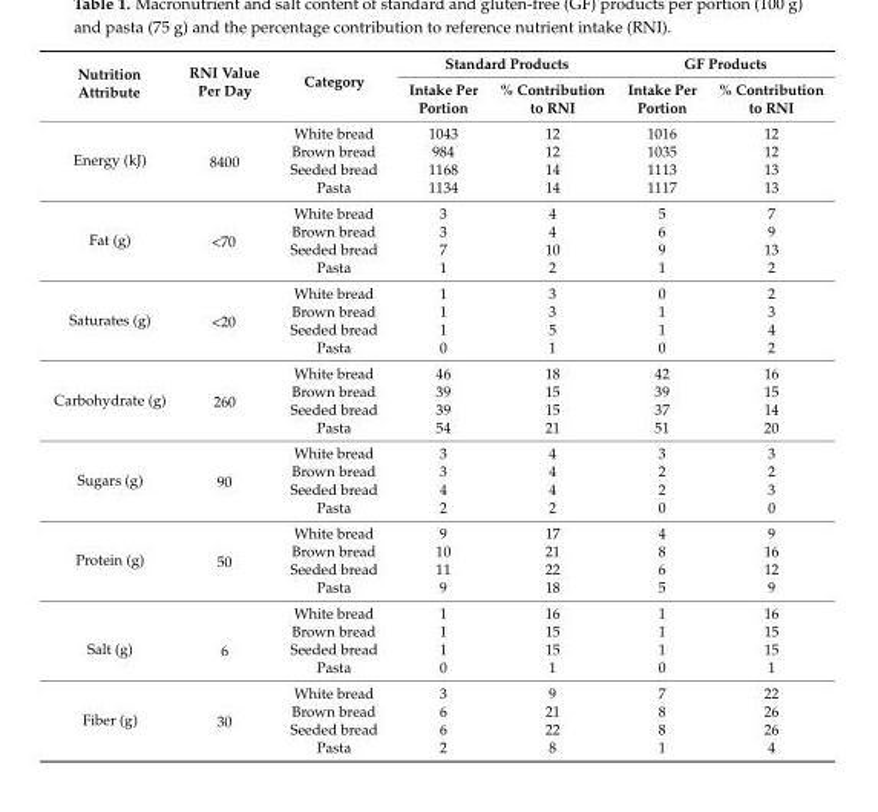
<table><thead><tr><td rowspan="2">Nutrition Attribute</td><td rowspan="2">RNI Value Per Day</td><td rowspan="2">Category</td><td colspan="2">Standard Products</td><td colspan="2">GF Products</td></tr><tr><td>Intake Per Portion</td><td>% Contribution to RNI</td><td>Intake Per Portion</td><td>% Contribution to RNI</td></tr></thead><tbody><tr><td rowspan="4">Energy (kJ)</td><td rowspan="4">8400</td><td>White bread</td><td>1043</td><td>12</td><td>1016</td><td>12</td></tr><tr><td>Brown bread</td><td>984</td><td>12</td><td>1035</td><td>12</td></tr><tr><td>Seeded bread</td><td>1168</td><td>14</td><td>1113</td><td>13</td></tr><tr><td>Pasta</td><td>1134</td><td>14</td><td>1117</td><td>13</td></tr><tr><td rowspan="4">Fat (g)</td><td rowspan="4">&lt;70</td><td>White bread</td><td>3</td><td>4</td><td>5</td><td>7</td></tr><tr><td>Brown bread</td><td>3</td><td>4</td><td>6</td><td>9</td></tr><tr><td>Seeded bread</td><td>7</td><td>10</td><td>9</td><td>13</td></tr><tr><td>Pasta</td><td>1</td><td>2</td><td>1</td><td>2</td></tr><tr><td rowspan="4">Saturates (g)</td><td rowspan="4">&lt;20</td><td>White bread</td><td>1</td><td>3</td><td>0</td><td>2</td></tr><tr><td>Brown bread</td><td>1</td><td>3</td><td>1</td><td>3</td></tr><tr><td>Seeded bread</td><td>1</td><td>5</td><td>1</td><td>4</td></tr><tr><td>Pasta</td><td>0</td><td>1</td><td>0</td><td>2</td></tr><tr><td rowspan="4">Carbohydrate (g)</td><td rowspan="4">260</td><td>White bread</td><td>46</td><td>18</td><td>42</td><td>16</td></tr><tr><td>Brown bread</td><td>39</td><td>15</td><td>39</td><td>15</td></tr><tr><td>Seeded bread</td><td>39</td><td>15</td><td>37</td><td>14</td></tr><tr><td>Pasta</td><td>54</td><td>21</td><td>51</td><td>20</td></tr><tr><td rowspan="4">Sugars (g)</td><td rowspan="4">90</td><td>White bread</td><td>3</td><td>4</td><td>3</td><td>3</td></tr><tr><td>Brown bread</td><td>3</td><td>4</td><td>2</td><td>2</td></tr><tr><td>Seeded bread</td><td>4</td><td>4</td><td>2</td><td>3</td></tr><tr><td>Pasta</td><td>2</td><td>2</td><td>0</td><td>0</td></tr><tr><td rowspan="4">Protein (g)</td><td rowspan="4">50</td><td>White bread</td><td>9</td><td>17</td><td>4</td><td>9</td></tr><tr><td>Brown bread</td><td>10</td><td>21</td><td>8</td><td>16</td></tr><tr><td>Seeded bread</td><td>11</td><td>22</td><td>6</td><td>12</td></tr><tr><td>Pasta</td><td>9</td><td>18</td><td>5</td><td>9</td></tr><tr><td rowspan="4">Salt (g)</td><td rowspan="4">6</td><td>White bread</td><td>1</td><td>16</td><td>1</td><td>16</td></tr><tr><td>Brown bread</td><td>1</td><td>15</td><td>1</td><td>15</td></tr><tr><td>Seeded bread</td><td>1</td><td>15</td><td>1</td><td>15</td></tr><tr><td>Pasta</td><td>0</td><td>1</td><td>0</td><td>1</td></tr><tr><td rowspan="4">Fiber (g)</td><td rowspan="4">30</td><td>White bread</td><td>3</td><td>9</td><td>7</td><td>22</td></tr><tr><td>Brown bread</td><td>6</td><td>21</td><td>8</td><td>26</td></tr><tr><td>Seeded bread</td><td>6</td><td>22</td><td>8</td><td>26</td></tr><tr><td>Pasta</td><td>2</td><td>8</td><td>1</td><td>4</td></tr></tbody></table>